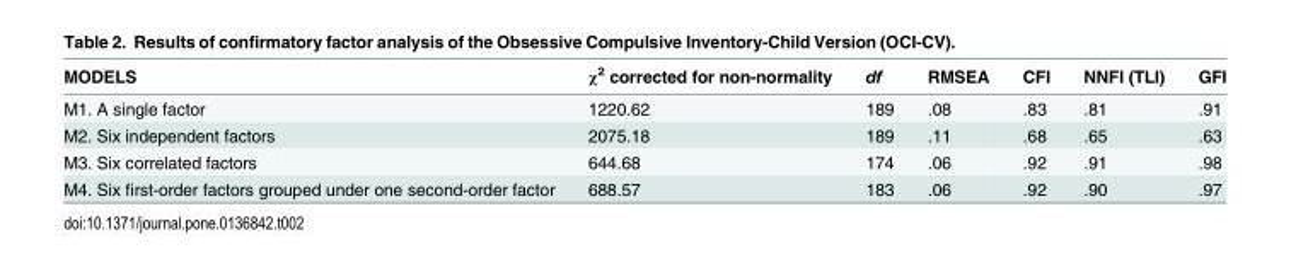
<table><thead><tr><td>MODELS</td><td>χ<sup>2</sup> corrected for non-normality</td><td>df</td><td>RMSEA</td><td>CFI</td><td>NNFI (TLI)</td><td>GFI</td></tr></thead><tbody><tr><td>M1. A single factor</td><td>1220.62</td><td>189</td><td>.08</td><td>.83</td><td>.81</td><td>.91</td></tr><tr><td>M2. Six independent factors</td><td>2075.18</td><td>189</td><td>.11</td><td>.68</td><td>.65</td><td>.63</td></tr><tr><td>M3. Six correlated factors</td><td>644.68</td><td>174</td><td>.06</td><td>.92</td><td>.91</td><td>.98</td></tr><tr><td>M4. Six first-order factors grouped under one second-order factor</td><td>688.57</td><td>183</td><td>.06</td><td>.92</td><td>.90</td><td>.97</td></tr></tbody></table>